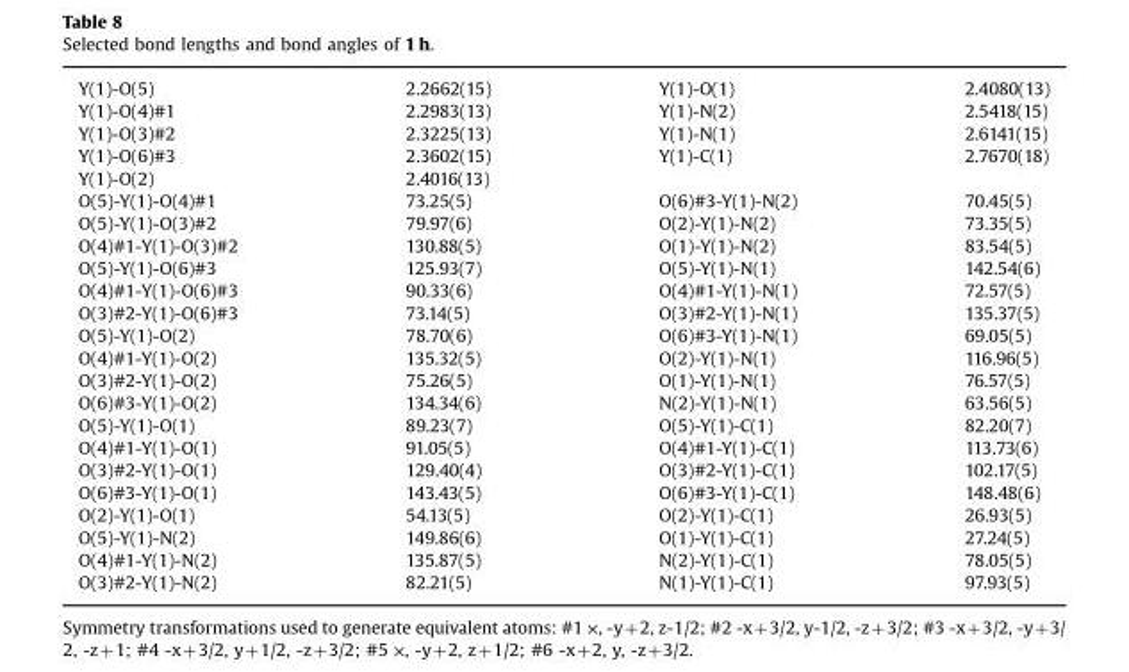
<table><tbody><tr><td>Y(1)-O(5)</td><td>2.2662(15)</td><td>Y(1)-O(1)</td><td>2.4080(13)</td></tr><tr><td>Y(1)-O(4)#1</td><td>2.2983(13)</td><td>Y(1)-N(2)</td><td>2.5418(15)</td></tr><tr><td>Y(1)-O(3)#2</td><td>2.3225(13)</td><td>Y(1)-N(1)</td><td>2.6141(15)</td></tr><tr><td>Y(1)-O(6)#3</td><td>2.3602(15)</td><td>Y(1)-C(1)</td><td>2.7670(18)</td></tr><tr><td>Y(1)-O(2)</td><td>2.4016(13)</td><td></td><td></td></tr><tr><td>O(5)-Y(1)-O(4)#1</td><td>73.25(5)</td><td>O(6)#3-Y(1)-N(2)</td><td>70.45(5)</td></tr><tr><td>O(5)-Y(1)-O(3)#2</td><td>79.97(6)</td><td>O(2)-Y(1)-N(2)</td><td>73.35(5)</td></tr><tr><td>O(4)#1-Y(1)-O(3)#2</td><td>130.88(5)</td><td>O(1)-Y(1)-N(2)</td><td>83.54(5)</td></tr><tr><td>O(5)-Y(1)-O(6)#3</td><td>125.93(7)</td><td>O(5)-Y(1)-N(1)</td><td>142.54(6)</td></tr><tr><td>O(4)#1-Y(1)-O(6)#3</td><td>90.33(6)</td><td>O(4)#1-Y(1)-N(1)</td><td>72.57(5)</td></tr><tr><td>O(3)#2-Y(1)-O(6)#3</td><td>73.14(5)</td><td>O(3)#2-Y(1)-N(1)</td><td>135.37(5)</td></tr><tr><td>O(5)-Y(1)-O(2)</td><td>78.70(6)</td><td>O(6)#3-Y(1)-N(1)</td><td>69.05(5)</td></tr><tr><td>O(4)#1-Y(1)-O(2)</td><td>135.32(5)</td><td>O(2)-Y(1)-N(1)</td><td>116.96(5)</td></tr><tr><td>O(3)#2-Y(1)-O(2)</td><td>75.26(5)</td><td>O(1)-Y(1)-N(1)</td><td>76.57(5)</td></tr><tr><td>O(6)#3-Y(1)-O(2)</td><td>134.34(6)</td><td>N(2)-Y(1)-N(1)</td><td>63.56(5)</td></tr><tr><td>O(5)-Y(1)-O(1)</td><td>89.23(7)</td><td>O(5)-Y(1)-C(1)</td><td>82.20(7)</td></tr><tr><td>O(4)#1-Y(1)-O(1)</td><td>91.05(5)</td><td>O(4)#1-Y(1)-C(1)</td><td>113.73(6)</td></tr><tr><td>O(3)#2-Y(1)-O(1)</td><td>129.40(4)</td><td>O(3)#2-Y(1)-C(1)</td><td>102.17(5)</td></tr><tr><td>O(6)#3-Y(1)-O(1)</td><td>143.43(5)</td><td>O(6)#3-Y(1)-C(1)</td><td>148.48(6)</td></tr><tr><td>O(2)-Y(1)-O(1)</td><td>54.13(5)</td><td>O(2)-Y(1)-C(1)</td><td>26.93(5)</td></tr><tr><td>O(5)-Y(1)-N(2)</td><td>149.86(6)</td><td>O(1)-Y(1)-C(1)</td><td>27.24(5)</td></tr><tr><td>O(4)#1-Y(1)-N(2)</td><td>135.87(5)</td><td>N(2)-Y(1)-C(1)</td><td>78.05(5)</td></tr><tr><td>O(3)#2-Y(1)-N(2)</td><td>82.21(5)</td><td>N(1)-Y(1)-C(1)</td><td>97.93(5)</td></tr></tbody></table>